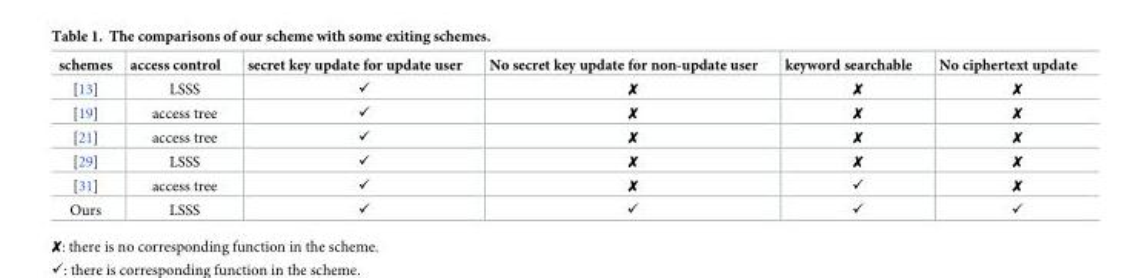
<table><thead><tr><td>schemes</td><td>access control</td><td>secret key update for update user</td><td>No secret key update for non-update user</td><td>keyword searchable</td><td>No ciphertext update</td></tr></thead><tbody><tr><td>[13]</td><td>LSSS</td><td>✓</td><td>✘</td><td>✘</td><td>✘</td></tr><tr><td>[19]</td><td>access tree</td><td>✓</td><td>✘</td><td>✘</td><td>✘</td></tr><tr><td>[21]</td><td>access tree</td><td>✓</td><td>✘</td><td>✘</td><td>✘</td></tr><tr><td>[29]</td><td>LSSS</td><td>✓</td><td>✘</td><td>✘</td><td>✘</td></tr><tr><td>[31]</td><td>access tree</td><td>✓</td><td>✘</td><td>✓</td><td>✘</td></tr><tr><td>Ours</td><td>LSSS</td><td>✓</td><td>✓</td><td>✓</td><td>✓</td></tr></tbody></table>